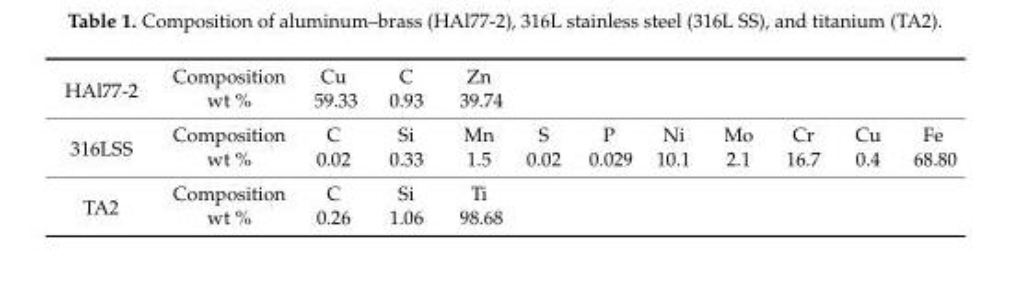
<table><tbody><tr><td rowspan="2">HAl77-2</td><td>Composition</td><td>Cu</td><td>C</td><td>Zn</td><td></td><td></td><td></td><td></td><td></td><td></td><td></td></tr><tr><td>wt %</td><td>59.33</td><td>0.93</td><td>39.74</td><td></td><td></td><td></td><td></td><td></td><td></td><td></td></tr><tr><td rowspan="2">316LSS</td><td>Composition</td><td>C</td><td>Si</td><td>Mn</td><td>S</td><td>P</td><td>Ni</td><td>Mo</td><td>Cr</td><td>Cu</td><td>Fe</td></tr><tr><td>wt %</td><td>0.02</td><td>0.33</td><td>1.5</td><td>0.02</td><td>0.029</td><td>10.1</td><td>2.1</td><td>16.7</td><td>0.4</td><td>68.80</td></tr><tr><td rowspan="2">TA2</td><td>Composition</td><td>C</td><td>Si</td><td>Ti</td><td></td><td></td><td></td><td></td><td></td><td></td><td></td></tr><tr><td>wt %</td><td>0.26</td><td>1.06</td><td>98.68</td><td></td><td></td><td></td><td></td><td></td><td></td><td></td></tr></tbody></table>